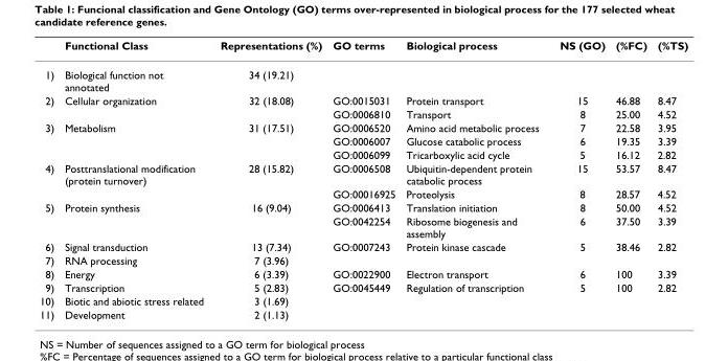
<table><thead><tr><td></td><td>Functional Class</td><td>Representations (%)</td><td>GO terms</td><td>Biological process</td><td>NS (GO)</td><td>(%FC)</td><td>(%TS)</td></tr></thead><tbody><tr><td>1)</td><td>Biological function not annotated</td><td>34 (19.21)</td><td></td><td></td><td></td><td></td><td></td></tr><tr><td rowspan="2">2)</td><td>Cellular organization</td><td>32 (18.08)</td><td>GO:0015031</td><td>Protein transport</td><td>15</td><td>46.88</td><td>8.47</td></tr><tr><td></td><td></td><td>GO:0006810</td><td>Transport</td><td>8</td><td>25.00</td><td>4.52</td></tr><tr><td rowspan="3">3)</td><td>Metabolism</td><td>31 (17.51)</td><td>GO:0006520</td><td>Amino acid metabolic process</td><td>7</td><td>22.58</td><td>3.95</td></tr><tr><td></td><td></td><td>GO:0006007</td><td>Glucose catabolic process</td><td>6</td><td>19.35</td><td>3.39</td></tr><tr><td></td><td></td><td>GO:0006099</td><td>Tricarboxylic acid cycle</td><td>5</td><td>16.12</td><td>2.82</td></tr><tr><td rowspan="2">4)</td><td>Posttranslational modification (protein turnover)</td><td>28 (15.82)</td><td>GO:0006508</td><td>Ubiquitin-dependent protein catabolic process</td><td>15</td><td>53.57</td><td>8.47</td></tr><tr><td></td><td></td><td>GO:00016925</td><td>Proteolysis</td><td>8</td><td>28.57</td><td>4.52</td></tr><tr><td rowspan="2">5)</td><td>Protein synthesis</td><td>16 (9.04)</td><td>GO:0006413</td><td>Translation initiation</td><td>8</td><td>50.00</td><td>4.52</td></tr><tr><td></td><td></td><td>GO:0042254</td><td>Ribosome biogenesis and assembly</td><td>6</td><td>37.50</td><td>3.39</td></tr><tr><td>6)</td><td>Signal transduction</td><td>13 (7.34)</td><td>GO:0007243</td><td>Protein kinase cascade</td><td>5</td><td>38.46</td><td>2.82</td></tr><tr><td>7)</td><td>RNA processing</td><td>7 (3.96)</td><td></td><td></td><td></td><td></td><td></td></tr><tr><td>8)</td><td>Energy</td><td>6 (3.39)</td><td>GO:0022900</td><td>Electron transport</td><td>6</td><td>100</td><td>3.39</td></tr><tr><td>9)</td><td>Transcription</td><td>5 (2.83)</td><td>GO:0045449</td><td>Regulation of transcription</td><td>5</td><td>100</td><td>2.82</td></tr><tr><td>10)</td><td>Biotic and abiotic stress related</td><td>3 (1.69)</td><td></td><td></td><td></td><td></td><td></td></tr><tr><td>11)</td><td>Development</td><td>2 (1.13)</td><td></td><td></td><td></td><td></td><td></td></tr></tbody></table>